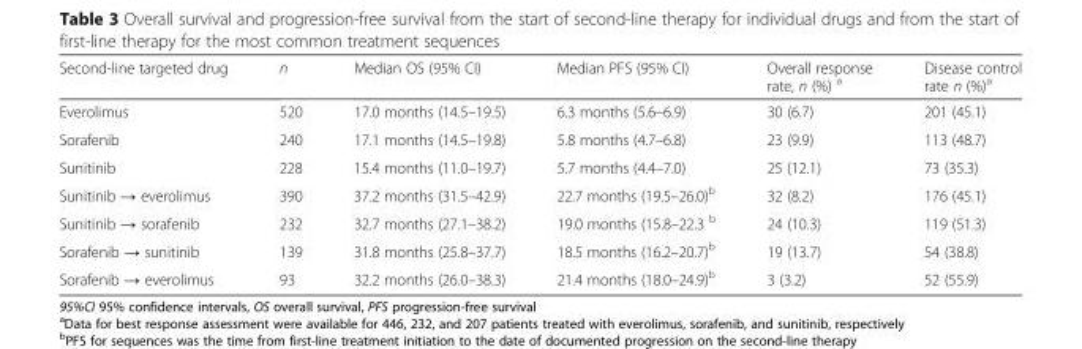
<table><thead><tr><td>Second-line targeted drug</td><td>n</td><td>Median OS (95% CI)</td><td>Median PFS (95% CI)</td><td>Overall response rate, n (%) <sup>a</sup></td><td>Disease control rate n (%)<sup>a</sup></td></tr></thead><tbody><tr><td>Everolimus</td><td>520</td><td>17.0 months (14.5–19.5)</td><td>6.3 months (5.6–6.9)</td><td>30 (6.7)</td><td>201 (45.1)</td></tr><tr><td>Sorafenib</td><td>240</td><td>17.1 months (14.5–19.8)</td><td>5.8 months (4.7–6.8)</td><td>23 (9.9)</td><td>113 (48.7)</td></tr><tr><td>Sunitinib</td><td>228</td><td>15.4 months (11.0–19.7)</td><td>5.7 months (4.4–7.0)</td><td>25 (12.1)</td><td>73 (35.3)</td></tr><tr><td>Sunitinib → everolimus</td><td>390</td><td>37.2 months (31.5–42.9)</td><td>22.7 months (19.5–26.0)<sup>b</sup></td><td>32 (8.2)</td><td>176 (45.1)</td></tr><tr><td>Sunitinib → sorafenib</td><td>232</td><td>32.7 months (27.1–38.2)</td><td>19.0 months (15.8–22.3 <sup>b</sup></td><td>24 (10.3)</td><td>119 (51.3)</td></tr><tr><td>Sorafenib → sunitinib</td><td>139</td><td>31.8 months (25.8–37.7)</td><td>18.5 months (16.2–20.7)<sup>b</sup></td><td>19 (13.7)</td><td>54 (38.8)</td></tr><tr><td>Sorafenib → everolimus</td><td>93</td><td>32.2 months (26.0–38.3)</td><td>21.4 months (18.0–24.9)<sup>b</sup></td><td>3 (3.2)</td><td>52 (55.9)</td></tr></tbody></table>